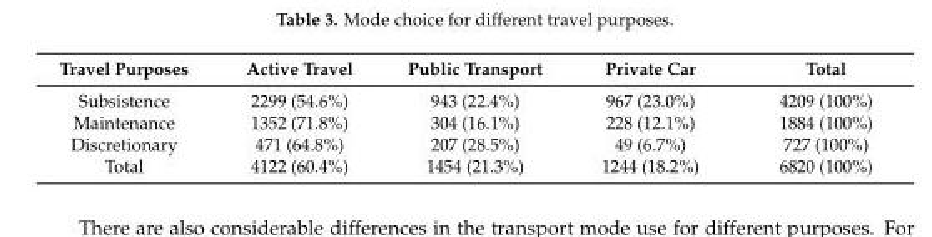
<table><thead><tr><td>Travel Purposes</td><td>Active Travel</td><td>Public Transport</td><td>Private Car</td><td>Total</td></tr></thead><tbody><tr><td>Subsistence</td><td>2299 (54.6%)</td><td>943 (22.4%)</td><td>967 (23.0%)</td><td>4209 (100%)</td></tr><tr><td>Maintenance</td><td>1352 (71.8%)</td><td>304 (16.1%)</td><td>228 (12.1%)</td><td>1884 (100%)</td></tr><tr><td>Discretionary</td><td>471 (64.8%)</td><td>207 (28.5%)</td><td>49 (6.7%)</td><td>727 (100%)</td></tr><tr><td>Total</td><td>4122 (60.4%)</td><td>1454 (21.3%)</td><td>1244 (18.2%)</td><td>6820 (100%)</td></tr></tbody></table>